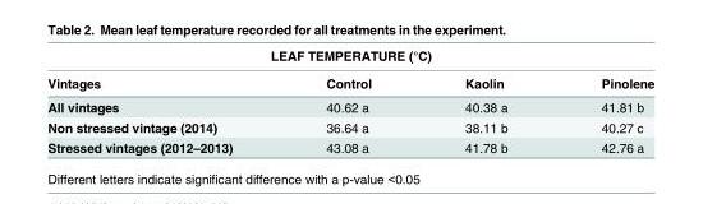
<table><thead><tr><td colspan="4">LEAF TEMPERATURE (°C)</td></tr><tr><td>Vintages</td><td>Control</td><td>Kaolin</td><td>Pinolene</td></tr></thead><tbody><tr><td>All vintages</td><td>40.62 a</td><td>40.38 a</td><td>41.81 b</td></tr><tr><td>Non stressed vintage (2014)</td><td>36.64 a</td><td>38.11 b</td><td>40.27 c</td></tr><tr><td>Stressed vintages (2012–2013)</td><td>43.08 a</td><td>41.78 b</td><td>42.76 a</td></tr></tbody></table>